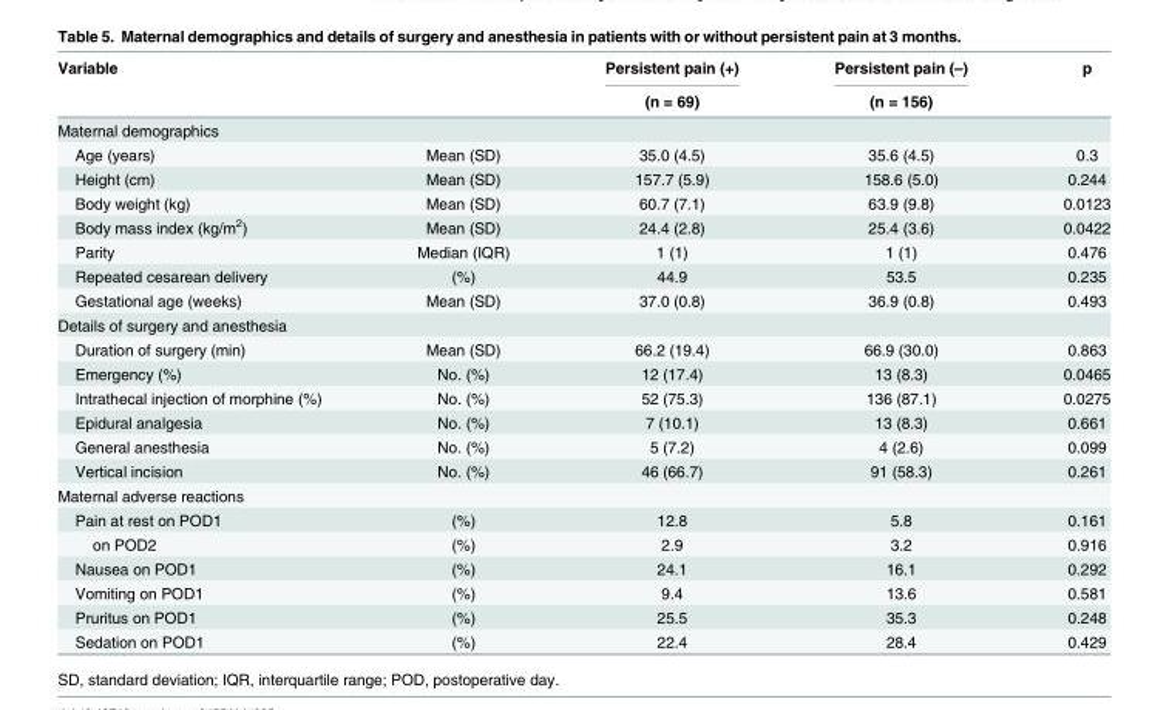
<table><thead><tr><td rowspan="2">Variable</td><td rowspan="2"></td><td rowspan="2">Persistent pain (+) (n = 69)</td><td rowspan="2">Persistent pain (–) (n = 156)</td><td rowspan="2">p</td></tr><tr></tr></thead><tbody><tr><td colspan="5">Maternal demographics</td></tr><tr><td>Age (years)</td><td>Mean (SD)</td><td>35.0 (4.5)</td><td>35.6 (4.5)</td><td>0.3</td></tr><tr><td>Height (cm)</td><td>Mean (SD)</td><td>157.7 (5.9)</td><td>158.6 (5.0)</td><td>0.244</td></tr><tr><td>Body weight (kg)</td><td>Mean (SD)</td><td>60.7 (7.1)</td><td>63.9 (9.8)</td><td>0.0123</td></tr><tr><td>Body mass index (kg/m<sup>2</sup>)</td><td>Mean (SD)</td><td>24.4 (2.8)</td><td>25.4 (3.6)</td><td>0.0422</td></tr><tr><td>Parity</td><td>Median (IQR)</td><td>1 (1)</td><td>1 (1)</td><td>0.476</td></tr><tr><td>Repeated cesarean delivery</td><td>(%)</td><td>44.9</td><td>53.5</td><td>0.235</td></tr><tr><td>Gestational age (weeks)</td><td>Mean (SD)</td><td>37.0 (0.8)</td><td>36.9 (0.8)</td><td>0.493</td></tr><tr><td colspan="5">Details of surgery and anesthesia</td></tr><tr><td>Duration of surgery (min)</td><td>Mean (SD)</td><td>66.2 (19.4)</td><td>66.9 (30.0)</td><td>0.863</td></tr><tr><td>Emergency (%)</td><td>No. (%)</td><td>12 (17.4)</td><td>13 (8.3)</td><td>0.0465</td></tr><tr><td>Intrathecal injection of morphine (%)</td><td>No. (%)</td><td>52 (75.3)</td><td>136 (87.1)</td><td>0.0275</td></tr><tr><td>Epidural analgesia</td><td>No. (%)</td><td>7 (10.1)</td><td>13 (8.3)</td><td>0.661</td></tr><tr><td>General anesthesia</td><td>No. (%)</td><td>5 (7.2)</td><td>4 (2.6)</td><td>0.099</td></tr><tr><td>Vertical incision</td><td>No. (%)</td><td>46 (66.7)</td><td>91 (58.3)</td><td>0.261</td></tr><tr><td colspan="5">Maternal adverse reactions</td></tr><tr><td>Pain at rest on POD1</td><td>(%)</td><td>12.8</td><td>5.8</td><td>0.161</td></tr><tr><td>on POD2</td><td>(%)</td><td>2.9</td><td>3.2</td><td>0.916</td></tr><tr><td>Nausea on POD1</td><td>(%)</td><td>24.1</td><td>16.1</td><td>0.292</td></tr><tr><td>Vomiting on POD1</td><td>(%)</td><td>9.4</td><td>13.6</td><td>0.581</td></tr><tr><td>Pruritus on POD1</td><td>(%)</td><td>25.5</td><td>35.3</td><td>0.248</td></tr><tr><td>Sedation on POD1</td><td>(%)</td><td>22.4</td><td>28.4</td><td>0.429</td></tr></tbody></table>